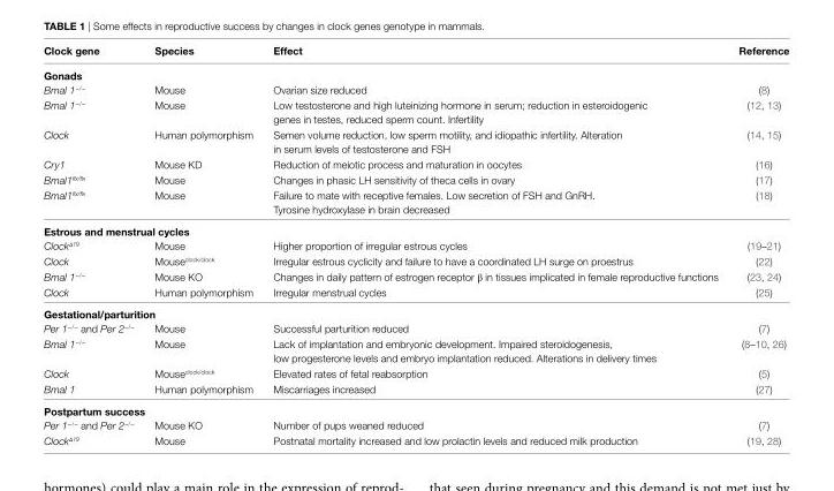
<table><thead><tr><td>Clock gene</td><td>Species</td><td>effect</td><td>Reference</td></tr></thead><tbody><tr><td colspan="4">Gonads</td></tr><tr><td>Bmal 1<sup>−/−</sup></td><td>Mouse</td><td>Ovarian size reduced</td><td>(8)</td></tr><tr><td>Bmal 1<sup>−/−</sup></td><td>Mouse</td><td>Low testosterone and high luteinizing hormone in serum; reduction in esteroidogenic genes in testes, reduced sperm count. Infertility</td><td>(12, 13)</td></tr><tr><td>Clock</td><td>Human polymorphism</td><td>Semen volume reduction, low sperm motility, and idiopathic infertility. Alteration in serum levels of testosterone and FSH</td><td>(14, 15)</td></tr><tr><td>Cry1</td><td>Mouse KD</td><td>Reduction of meiotic process and maturation in oocytes</td><td>(16)</td></tr><tr><td>Bmal1<sup>flx/flx</sup></td><td>Mouse</td><td>Changes in phasic LH sensitivity of theca cells in ovary</td><td>(17)</td></tr><tr><td>Bmal1<sup>flx/flx</sup></td><td>Mouse</td><td>Failure to mate with receptive females. Low secretion of FSH and GnRH. Tyrosine hydroxylase in brain decreased</td><td>(18)</td></tr><tr><td colspan="4">estrous and menstrual cycles</td></tr><tr><td>Clock<sup>Δ19</sup></td><td>Mouse</td><td>Higher proportion of irregular estrous cycles</td><td>(19–21)</td></tr><tr><td>Clock</td><td>Mouse<sup>clock/clock</sup></td><td>Irregular estrous cyclicity and failure to have a coordinated LH surge on proestrus</td><td>(22)</td></tr><tr><td>Bmal 1<sup>−/−</sup></td><td>Mouse KO</td><td>Changes in daily pattern of estrogen receptor β in tissues implicated in female reproductive functions</td><td>(23, 24)</td></tr><tr><td>Clock</td><td>Human polymorphism</td><td>Irregular menstrual cycles</td><td>(25)</td></tr><tr><td colspan="4">Gestational/parturition</td></tr><tr><td>Per 1<sup>−/−</sup> and Per 2<sup>−/−</sup></td><td>Mouse</td><td>Successful parturition reduced</td><td>(7)</td></tr><tr><td>Bmal 1<sup>−/−</sup></td><td>Mouse</td><td>Lack of implantation and embryonic development. Impaired steroidogenesis, low progesterone levels and embryo implantation reduced. Alterations in delivery times</td><td>(8–10, 26)</td></tr><tr><td>Clock</td><td>Mouse<sup>clock/clock</sup></td><td>Elevated rates of fetal reabsorption</td><td>(5)</td></tr><tr><td>Bmal 1</td><td>Human polymorphism</td><td>Miscarriages increased</td><td>(27)</td></tr><tr><td colspan="4">Postpartum success</td></tr><tr><td>Per 1<sup>−/−</sup> and Per 2<sup>−/−</sup></td><td>Mouse KO</td><td>Number of pups weaned reduced</td><td>(7)</td></tr><tr><td>Clock<sup>Δ19</sup></td><td>Mouse</td><td>Postnatal mortality increased and low prolactin levels and reduced milk production</td><td>(19, 28)</td></tr></tbody></table>